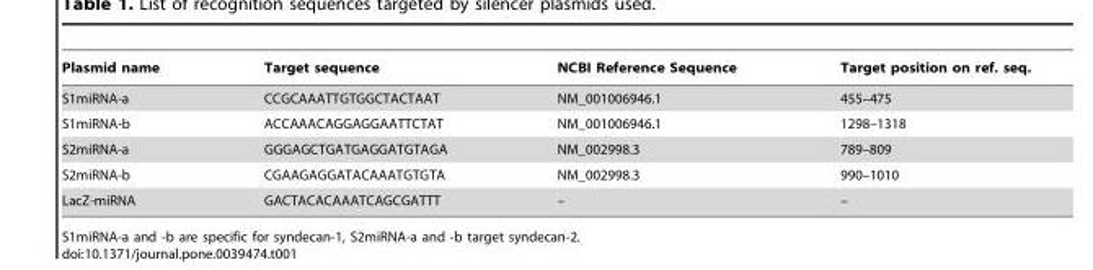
<table><thead><tr><td>Plasmid name</td><td>Target sequence</td><td>NCBI Reference Sequence</td><td>Target position on ref. seq.</td></tr></thead><tbody><tr><td>S1miRNA-a</td><td>CCGCAAATTGTGGCTACTAAT</td><td>NM_001006946.1</td><td>455–475</td></tr><tr><td>S1miRNA-b</td><td>ACCAAACAGGAGGAATTCTAT</td><td>NM_001006946.1</td><td>1298–1318</td></tr><tr><td>S2miRNA-a</td><td>GGGAGCTGATGAGGATGTAGA</td><td>NM_002998.3</td><td>789–809</td></tr><tr><td>S2miRNA-b</td><td>CGAAGAGGATACAAATGTGTA</td><td>NM_002998.3</td><td>990–1010</td></tr><tr><td>LacZ-miRNA</td><td>GACTACACAAATCAGCGATTT</td><td>–</td><td>–</td></tr></tbody></table>